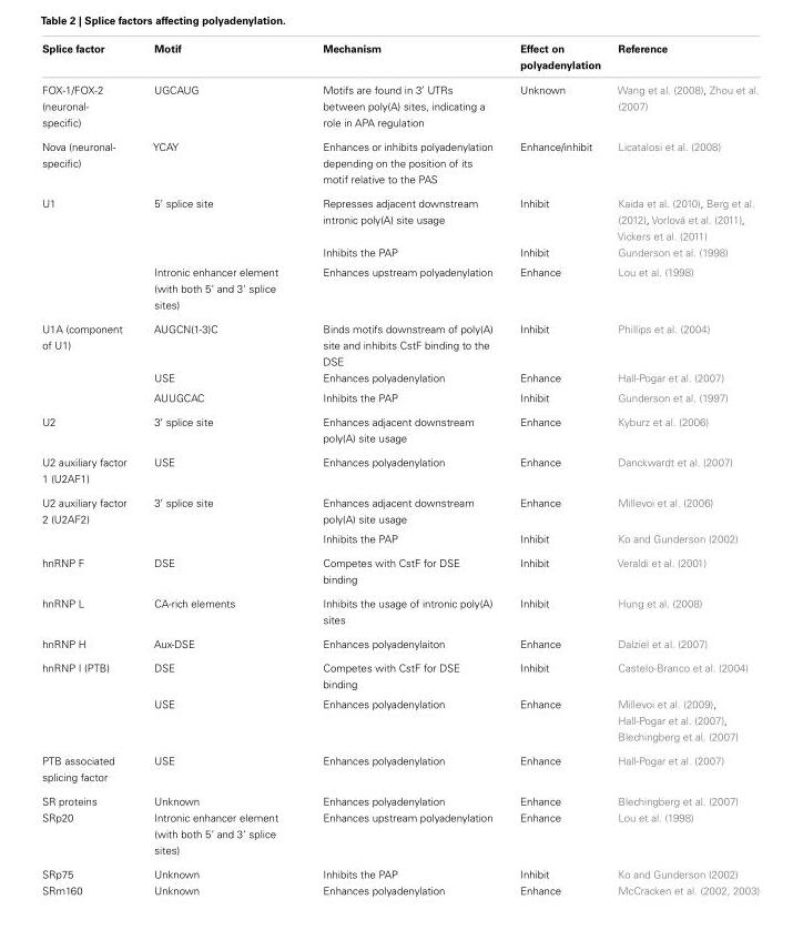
<table><thead><tr><td>Splice factor</td><td>Motif</td><td>Mechanism</td><td>Effect on polyadenylation</td><td>Reference</td></tr></thead><tbody><tr><td>FOX-1/FOX-2 (neuronal- specific)</td><td>UGCAUG</td><td>Motifs are found in 3′ UTRs between poly(A) sites, indicating a role in APA regulation</td><td>Unknown</td><td>Wang et al. (2008), Zhou et al. (2007)</td></tr><tr><td>Nova (neuronal- specific)</td><td>YCAY</td><td>Enhances or inhibits polyadenylation depending on the position of its motif relative to the PAS</td><td>Enhance/inhibit</td><td>Licatalosi et al. (2008)</td></tr><tr><td rowspan="3">U1</td><td>5′ splice site</td><td>Represses adjacent downstream intronic poly(A) site usage</td><td>Inhibit</td><td>Kaida et al. (2010), Berg et al. (2012), Vorlová et al. (2011), Vickers et al. (2011)</td></tr><tr><td></td><td>Inhibits the PAP</td><td>Inhibit</td><td>Gunderson et al. (1998)</td></tr><tr><td>Intronic enhancer element (with both 5’ and 3’ splice sites)</td><td>Enhances upstream polyadenylation</td><td>Enhance</td><td>Lou et al. (1998)</td></tr><tr><td rowspan="3">U1A (component of U1)</td><td>AUGCN(1-3)C</td><td>Binds motifs downstream of poly(A) site and inhibits CstF binding to the DSE</td><td>Inhibit</td><td>Phillips et al. (2004)</td></tr><tr><td>USE</td><td>Enhances polyadenylation</td><td>Enhance</td><td>Hall-Pogar et al. (2007)</td></tr><tr><td>AUUGCAC</td><td>Inhibits the PAP</td><td>Inhibit</td><td>Gunderson et al. (1997)</td></tr><tr><td>U2</td><td>3′ splice site</td><td>Enhances adjacent downstream poly(A) site usage</td><td>Enhance</td><td>Kyburz et al. (2006)</td></tr><tr><td>U2 auxiliary factor 1 (U2AF1)</td><td>USE</td><td>Enhances polyadenylation</td><td>Enhance</td><td>Danckwardt et al. (2007)</td></tr><tr><td rowspan="2">U2 auxiliary factor 2 (U2AF2)</td><td>3′ splice site</td><td>Enhances adjacent downstream poly(A) site usage</td><td>Enhance</td><td>Millevoi et al. (2006)</td></tr><tr><td></td><td>Inhibits the PAP</td><td>Inhibit</td><td>Ko and Gunderson (2002)</td></tr><tr><td>hnRNP F</td><td>DSE</td><td>Competes with CstF for DSE binding</td><td>Inhibit</td><td>Veraldi et al. (2001)</td></tr><tr><td>hnRNP L</td><td>CA-rich elements</td><td>Inhibits the usage of intronic poly(A) sites</td><td>Inhibit</td><td>Hung et al. (2008)</td></tr><tr><td>hnRNP H</td><td>Aux-DSE</td><td>Enhances polyadenylaiton</td><td>Enhance</td><td>Dalziel et al. (2007)</td></tr><tr><td rowspan="2">hnRNP I (PTB)</td><td>DSE</td><td>Competes with CstF for DSE binding</td><td>Inhibit</td><td>Castelo-Branco et al. (2004)</td></tr><tr><td>USE</td><td>Enhances polyadenylation</td><td>Enhance</td><td>Millevoi et al. (2009), Hall-Pogar et al. (2007), Blechingberg et al. (2007)</td></tr><tr><td>PTB associated splicing factor</td><td>USE</td><td>Enhances polyadenylation</td><td>Enhance</td><td>Hall-Pogar et al. (2007)</td></tr><tr><td>SR proteins</td><td>Unknown</td><td>Enhances polyadenylation</td><td>Enhance</td><td>Blechingberg et al. (2007)</td></tr><tr><td>SRp20</td><td>Intronic enhancer element (with both 5’ and 3’ splice sites)</td><td>Enhances upstream polyadenylation</td><td>Enhance</td><td>Lou et al. (1998)</td></tr><tr><td>SRp75</td><td>Unknown</td><td>Inhibits the PAP</td><td>Inhibit</td><td>Ko and Gunderson (2002)</td></tr><tr><td>SRm160</td><td>Unknown</td><td>Enhances polyadenylation</td><td>Enhance</td><td>McCracken et al. (2002, 2003)</td></tr></tbody></table>